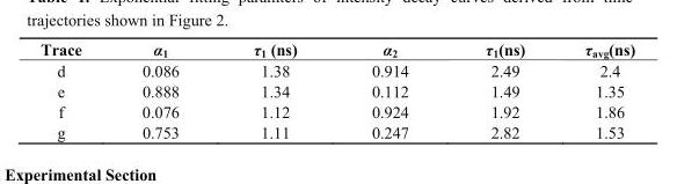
<table><thead><tr><td>Trace</td><td>α<sub>1</sub></td><td>τ<sub>1</sub> (ns)</td><td>α<sub>2</sub></td><td>τ<sub>1</sub>(ns)</td><td>τ<sub>avg</sub>(ns)</td></tr></thead><tbody><tr><td>d</td><td>0.086</td><td>1.38</td><td>0.914</td><td>2.49</td><td>2.4</td></tr><tr><td>e</td><td>0.888</td><td>1.34</td><td>0.112</td><td>1.49</td><td>1.35</td></tr><tr><td>f</td><td>0.076</td><td>1.12</td><td>0.924</td><td>1.92</td><td>1.86</td></tr><tr><td>g</td><td>0.753</td><td>1.11</td><td>0.247</td><td>2.82</td><td>1.53</td></tr></tbody></table>